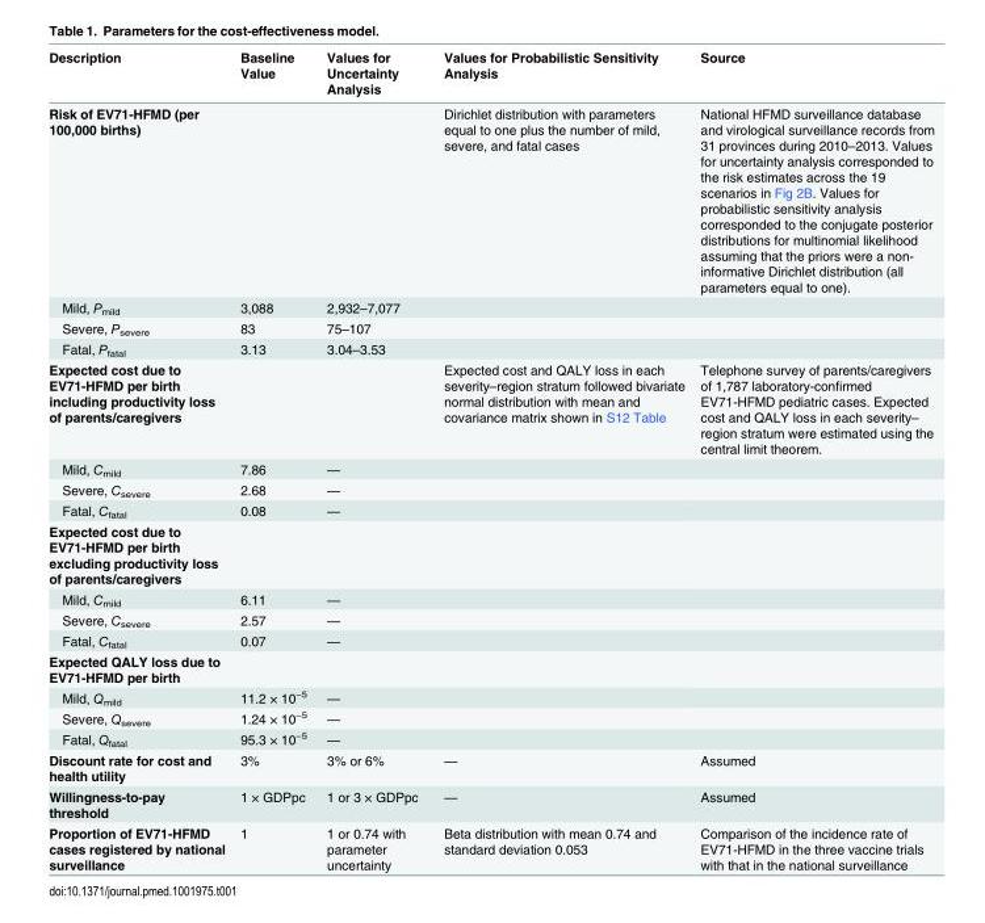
<table><thead><tr><td>Description</td><td>Baseline Value</td><td>Values for Uncertainty Analysis</td><td>Values for Probabilistic Sensitivity Analysis</td><td>Source</td></tr></thead><tbody><tr><td>Risk of EV71-HFMD (per 100,000 births)</td><td></td><td></td><td>Dirichlet distribution with parameters equal to one plus the number of mild, severe, and fatal cases</td><td>National HFMD surveillance database and virological surveillance records from 31 provinces during 2010–2013. Values for uncertainty analysis corresponded to the risk estimates across the 19 scenarios in Fig 2B. Values for probabilistic sensitivity analysis corresponded to the conjugate posterior distributions for multinomial likelihood assuming that the priors were a non- informative Dirichlet distribution (all parameters equal to one).</td></tr><tr><td>Mild, P<sub>mild</sub></td><td>3,088</td><td>2,932–7,077</td><td></td><td></td></tr><tr><td>Severe, P<sub>severe</sub></td><td>83</td><td>75–107</td><td></td><td></td></tr><tr><td>Fatal, P<sub>fatal</sub></td><td>3.13</td><td>3.04–3.53</td><td></td><td></td></tr><tr><td>Expected cost due to EV71-HFMD per birth including productivity loss of parents/caregivers</td><td></td><td></td><td>Expected cost and QALY loss in each severity–region stratum followed bivariate normal distribution with mean and covariance matrix shown in S12 Table</td><td>Telephone survey of parents/caregivers of 1,787 laboratory-confirmed EV71-HFMD pediatric cases. Expected cost and QALY loss in each severity– region stratum were estimated using the central limit theorem.</td></tr><tr><td>Mild, C<sub>mild</sub></td><td>7.86</td><td>—</td><td></td><td></td></tr><tr><td>Severe, C<sub>severe</sub></td><td>2.68</td><td>—</td><td></td><td></td></tr><tr><td>Fatal, C<sub>fatal</sub></td><td>0.08</td><td>—</td><td></td><td></td></tr><tr><td colspan="5">Expected cost due to EV71-HFMD per birth excluding productivity loss of parents/caregivers</td></tr><tr><td>Mild, C<sub>mild</sub></td><td>6.11</td><td>—</td><td></td><td></td></tr><tr><td>Severe, C<sub>severe</sub></td><td>2.57</td><td>—</td><td></td><td></td></tr><tr><td>Fatal, C<sub>fatal</sub></td><td>0.07</td><td>—</td><td></td><td></td></tr><tr><td colspan="5">Expected QALY loss due to EV71-HFMD per birth</td></tr><tr><td>Mild, Q<sub>mild</sub></td><td>11.2 × 10<sup>−5</sup></td><td>—</td><td></td><td></td></tr><tr><td>Severe, Q<sub>severe</sub></td><td>1.24 × 10<sup>−5</sup></td><td>—</td><td></td><td></td></tr><tr><td>Fatal, Q<sub>fatal</sub></td><td>95.3 × 10<sup>−5</sup></td><td>—</td><td></td><td></td></tr><tr><td>Discount rate for cost and health utility</td><td>3%</td><td>3% or 6%</td><td>—</td><td>Assumed</td></tr><tr><td>Willingness-to-pay threshold</td><td>1 × GDPpc</td><td>1 or 3 × GDPpc</td><td>—</td><td>Assumed</td></tr><tr><td>Proportion of EV71-HFMD cases registered by national surveillance</td><td>1</td><td>1 or 0.74 with parameter uncertainty</td><td>Beta distribution with mean 0.74 and standard deviation 0.053</td><td>Comparison of the incidence rate of EV71-HFMD in the three vaccine trials with that in the national surveillance</td></tr></tbody></table>